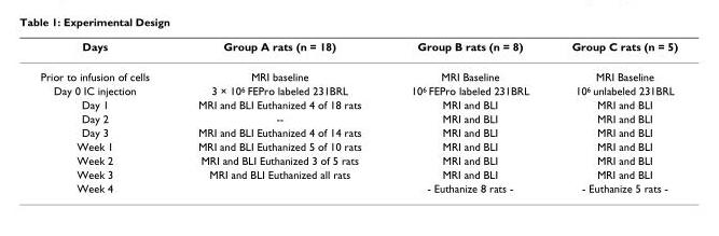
<table><thead><tr><td>Days</td><td>Group A rats (n = 18)</td><td>Group B rats (n = 8)</td><td>Group C rats (n = 5)</td></tr></thead><tbody><tr><td>Prior to infusion of cells</td><td>MRI baseline</td><td>MRI Baseline</td><td>MRI Baseline</td></tr><tr><td>Day 0 IC injection</td><td>3 × 10<sup>6</sup> FEPro labeled 231BRL</td><td>10<sup>6</sup> FEPro labeled 231BRL</td><td>10<sup>6</sup> unlabeled 231BRL</td></tr><tr><td>Day 1</td><td>MRI and BLI Euthanized 4 of 18 rats</td><td>MRI and BLI</td><td>MRI and BLI</td></tr><tr><td>Day 2</td><td>--</td><td>MRI and BLI</td><td>MRI and BLI</td></tr><tr><td>Day 3</td><td>MRI and BLI Euthanized 4 of 14 rats</td><td>MRI and BLI</td><td>MRI and BLI</td></tr><tr><td>Week 1</td><td>MRI and BLI Euthanized 5 of 10 rats</td><td>MRI and BLI</td><td>MRI and BLI</td></tr><tr><td>Week 2</td><td>MRI and BLI Euthanized 3 of 5 rats</td><td>MRI and BLI</td><td>MRI and BLI</td></tr><tr><td>Week 3</td><td>MRI and BLI Euthanized all rats</td><td>MRI and BLI</td><td>MRI and BLI</td></tr><tr><td>Week 4</td><td></td><td>- Euthanize 8 rats -</td><td>- Euthanize 5 rats -</td></tr></tbody></table>